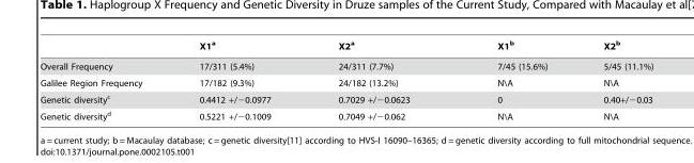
<table><thead><tr><td></td><td>X1<sup>a</sup></td><td>X2<sup>a</sup></td><td>X1<sup>b</sup></td><td>X2<sup>b</sup></td></tr></thead><tbody><tr><td>Overall Frequency</td><td>17/311 (5.4%)</td><td>24/311 (7.7%)</td><td>7/45 (15.6%)</td><td>5/45 (11.1%)</td></tr><tr><td>Galilee Region Frequency</td><td>17/182 (9.3%)</td><td>24/182 (13.2%)</td><td>N\A</td><td>N\A</td></tr><tr><td>Genetic diversity<sup>c</sup></td><td>0.4412 +/−0.0977</td><td>0.7029 +/−0.0623</td><td>0</td><td>0.40+/−0.03</td></tr><tr><td>Genetic diversity<sup>d</sup></td><td>0.5221 +/−0.1009</td><td>0.7049 +/−0.062</td><td>N\A</td><td>N\A</td></tr></tbody></table>